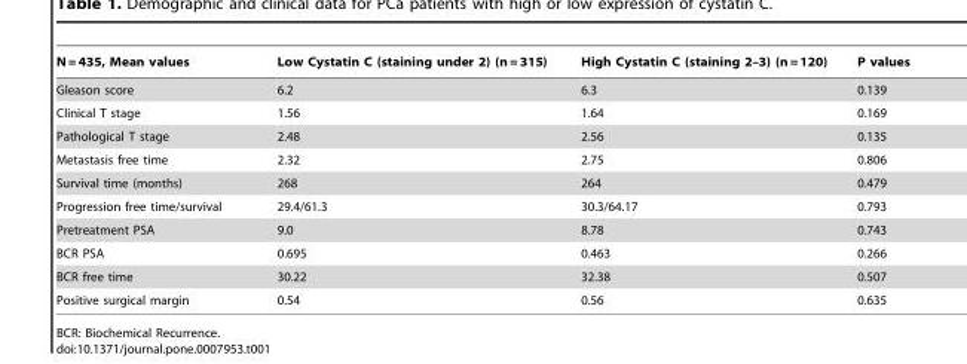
<table><thead><tr><td>N = 435, Mean values</td><td>Low Cystatin C (staining under 2) (n = 315)</td><td>High Cystatin C (staining 2–3) (n = 120)</td><td>P values</td></tr></thead><tbody><tr><td>Gleason score</td><td>6.2</td><td>6.3</td><td>0.139</td></tr><tr><td>Clinical T stage</td><td>1.56</td><td>1.64</td><td>0.169</td></tr><tr><td>Pathological T stage</td><td>2.48</td><td>2.56</td><td>0.135</td></tr><tr><td>Metastasis free time</td><td>2.32</td><td>2.75</td><td>0.806</td></tr><tr><td>Survival time (months)</td><td>268</td><td>264</td><td>0.479</td></tr><tr><td>Progression free time/survival</td><td>29.4/61.3</td><td>30.3/64.17</td><td>0.793</td></tr><tr><td>Pretreatment PSA</td><td>9.0</td><td>8.78</td><td>0.743</td></tr><tr><td>BCR PSA</td><td>0.695</td><td>0.463</td><td>0.266</td></tr><tr><td>BCR free time</td><td>30.22</td><td>32.38</td><td>0.507</td></tr><tr><td>Positive surgical margin</td><td>0.54</td><td>0.56</td><td>0.635</td></tr></tbody></table>